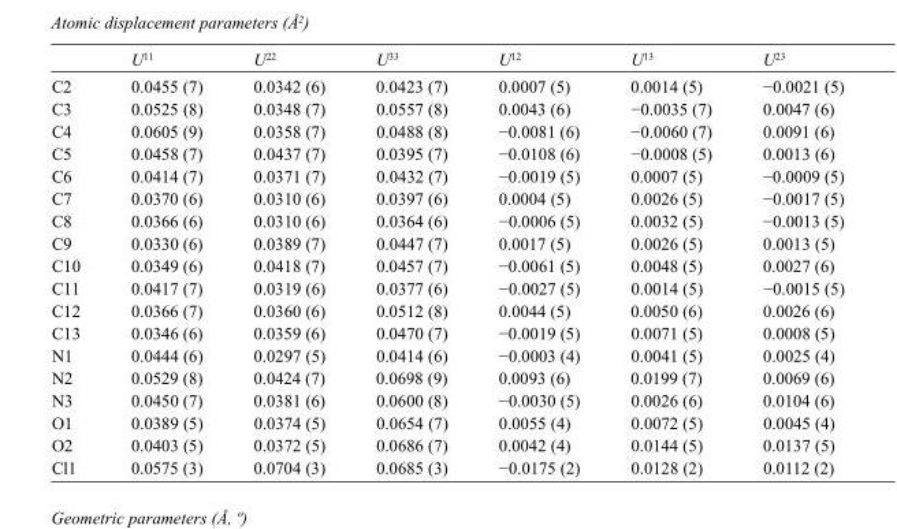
<table><thead><tr><td></td><td>U<sup>11</sup></td><td>U<sup>22</sup></td><td>U<sup>33</sup></td><td>U<sup>12</sup></td><td>U<sup>13</sup></td><td>U<sup>23</sup></td></tr></thead><tbody><tr><td>C2</td><td>0.0455 (7)</td><td>0.0342 (6)</td><td>0.0423 (7)</td><td>0.0007 (5)</td><td>0.0014 (5)</td><td>−0.0021 (5)</td></tr><tr><td>C3</td><td>0.0525 (8)</td><td>0.0348 (7)</td><td>0.0557 (8)</td><td>0.0043 (6)</td><td>−0.0035 (7)</td><td>0.0047 (6)</td></tr><tr><td>C4</td><td>0.0605 (9)</td><td>0.0358 (7)</td><td>0.0488 (8)</td><td>−0.0081 (6)</td><td>−0.0060 (7)</td><td>0.0091 (6)</td></tr><tr><td>C5</td><td>0.0458 (7)</td><td>0.0437 (7)</td><td>0.0395 (7)</td><td>−0.0108 (6)</td><td>−0.0008 (5)</td><td>0.0013 (6)</td></tr><tr><td>C6</td><td>0.0414 (7)</td><td>0.0371 (7)</td><td>0.0432 (7)</td><td>−0.0019 (5)</td><td>0.0007 (5)</td><td>−0.0009 (5)</td></tr><tr><td>C7</td><td>0.0370 (6)</td><td>0.0310 (6)</td><td>0.0397 (6)</td><td>0.0004 (5)</td><td>0.0026 (5)</td><td>−0.0017 (5)</td></tr><tr><td>C8</td><td>0.0366 (6)</td><td>0.0310 (6)</td><td>0.0364 (6)</td><td>−0.0006 (5)</td><td>0.0032 (5)</td><td>−0.0013 (5)</td></tr><tr><td>C9</td><td>0.0330 (6)</td><td>0.0389 (7)</td><td>0.0447 (7)</td><td>0.0017 (5)</td><td>0.0026 (5)</td><td>0.0013 (5)</td></tr><tr><td>C10</td><td>0.0349 (6)</td><td>0.0418 (7)</td><td>0.0457 (7)</td><td>−0.0061 (5)</td><td>0.0048 (5)</td><td>0.0027 (6)</td></tr><tr><td>C11</td><td>0.0417 (7)</td><td>0.0319 (6)</td><td>0.0377 (6)</td><td>−0.0027 (5)</td><td>0.0014 (5)</td><td>−0.0015 (5)</td></tr><tr><td>C12</td><td>0.0366 (7)</td><td>0.0360 (6)</td><td>0.0512 (8)</td><td>0.0044 (5)</td><td>0.0050 (6)</td><td>0.0026 (6)</td></tr><tr><td>C13</td><td>0.0346 (6)</td><td>0.0359 (6)</td><td>0.0470 (7)</td><td>−0.0019 (5)</td><td>0.0071 (5)</td><td>0.0008 (5)</td></tr><tr><td>N1</td><td>0.0444 (6)</td><td>0.0297 (5)</td><td>0.0414 (6)</td><td>−0.0003 (4)</td><td>0.0041 (5)</td><td>0.0025 (4)</td></tr><tr><td>N2</td><td>0.0529 (8)</td><td>0.0424 (7)</td><td>0.0698 (9)</td><td>0.0093 (6)</td><td>0.0199 (7)</td><td>0.0069 (6)</td></tr><tr><td>N3</td><td>0.0450 (7)</td><td>0.0381 (6)</td><td>0.0600 (8)</td><td>−0.0030 (5)</td><td>0.0026 (6)</td><td>0.0104 (6)</td></tr><tr><td>O1</td><td>0.0389 (5)</td><td>0.0374 (5)</td><td>0.0654 (7)</td><td>0.0055 (4)</td><td>0.0072 (5)</td><td>0.0045 (4)</td></tr><tr><td>O2</td><td>0.0403 (5)</td><td>0.0372 (5)</td><td>0.0686 (7)</td><td>0.0042 (4)</td><td>0.0144 (5)</td><td>0.0137 (5)</td></tr><tr><td>Cl1</td><td>0.0575 (3)</td><td>0.0704 (3)</td><td>0.0685 (3)</td><td>−0.0175 (2)</td><td>0.0128 (2)</td><td>0.0112 (2)</td></tr></tbody></table>